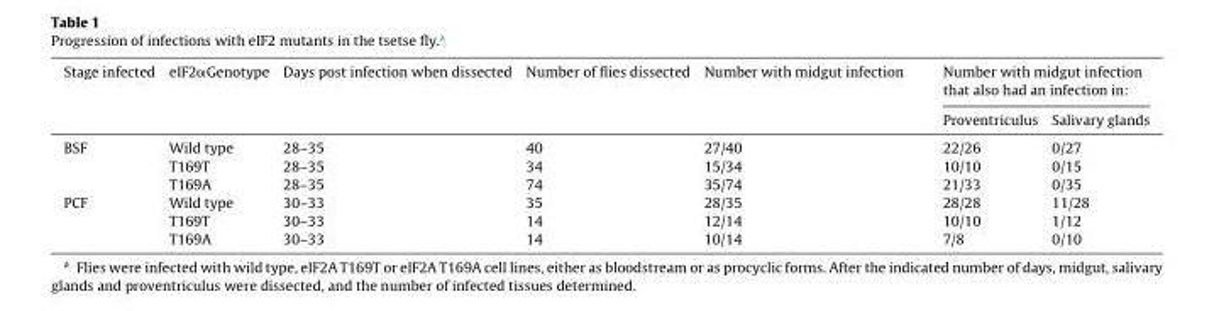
<table><thead><tr><td rowspan="2">Stage infected</td><td rowspan="2">eIF2αGenotype</td><td rowspan="2">Days post infection when dissected</td><td rowspan="2">Number of flies dissected</td><td rowspan="2">Number with midgut infection</td><td colspan="2">Number with midgut infection that also had an infection in:</td></tr><tr><td>Proventriculus</td><td>Salivary glands</td></tr></thead><tbody><tr><td rowspan="3">BSF</td><td>Wild type</td><td>28–35</td><td>40</td><td>27/40</td><td>22/26</td><td>0/27</td></tr><tr><td>T169T</td><td>28–35</td><td>34</td><td>15/34</td><td>10/10</td><td>0/15</td></tr><tr><td>T169A</td><td>28–35</td><td>74</td><td>35/74</td><td>21/33</td><td>0/35</td></tr><tr><td rowspan="3">PCF</td><td>Wild type</td><td>30–33</td><td>35</td><td>28/35</td><td>28/28</td><td>11/28</td></tr><tr><td>T169T</td><td>30–33</td><td>14</td><td>12/14</td><td>10/10</td><td>1/12</td></tr><tr><td>T169A</td><td>30–33</td><td>14</td><td>10/14</td><td>7/8</td><td>0/10</td></tr></tbody></table>